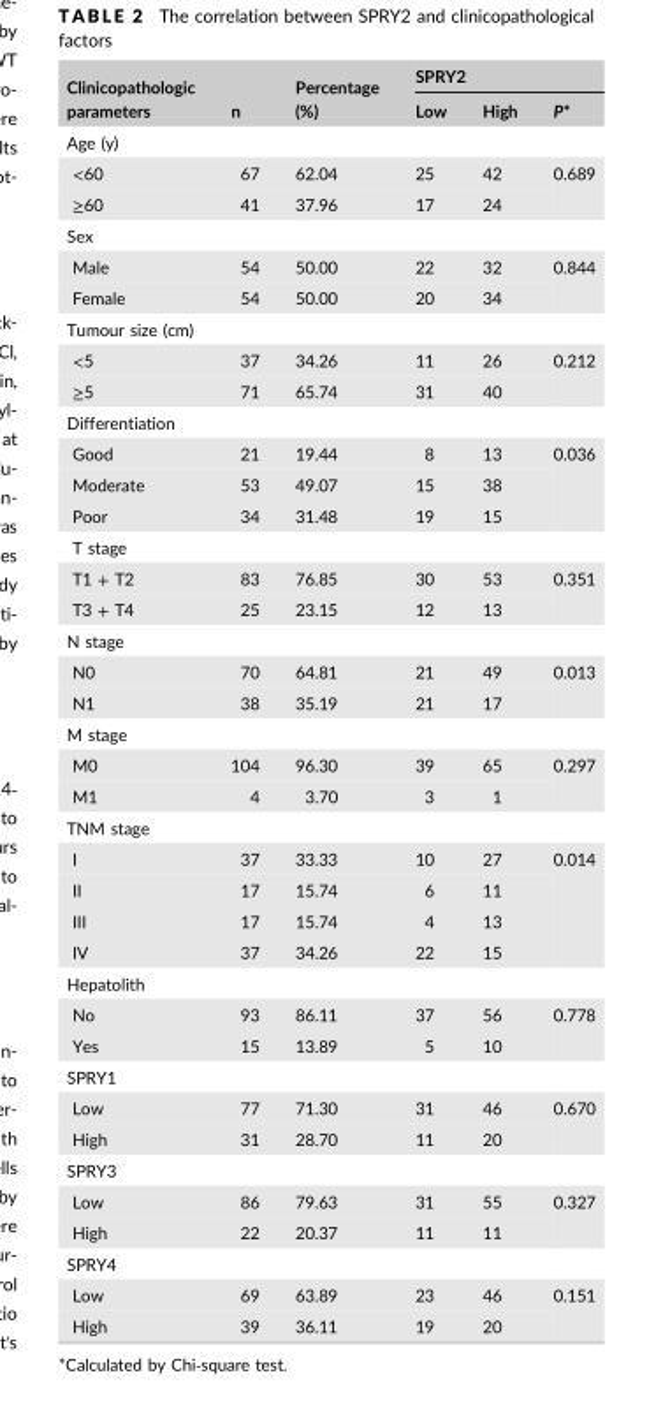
<table><thead><tr><td rowspan="2">Clinicopathologic parameters</td><td rowspan="2">n</td><td rowspan="2">Percentage (%)</td><td colspan="3">SPRY2</td></tr><tr><td>Low</td><td>High</td><td>P*</td></tr></thead><tbody><tr><td colspan="6">Age (y)</td></tr><tr><td>&lt;60</td><td>67</td><td>62.04</td><td>25</td><td>42</td><td rowspan="2">0.689</td></tr><tr><td>≥60</td><td>41</td><td>37.96</td><td>17</td><td>24</td></tr><tr><td colspan="6">Sex</td></tr><tr><td>Male</td><td>54</td><td>50.00</td><td>22</td><td>32</td><td rowspan="2">0.844</td></tr><tr><td>Female</td><td>54</td><td>50.00</td><td>20</td><td>34</td></tr><tr><td colspan="6">Tumour size (cm)</td></tr><tr><td>&lt;5</td><td>37</td><td>34.26</td><td>11</td><td>26</td><td rowspan="2">0.212</td></tr><tr><td>≥5</td><td>71</td><td>65.74</td><td>31</td><td>40</td></tr><tr><td colspan="6">Differentiation</td></tr><tr><td>Good</td><td>21</td><td>19.44</td><td>8</td><td>13</td><td rowspan="3">0.036</td></tr><tr><td>Moderate</td><td>53</td><td>49.07</td><td>15</td><td>38</td></tr><tr><td>Poor</td><td>34</td><td>31.48</td><td>19</td><td>15</td></tr><tr><td colspan="6">T stage</td></tr><tr><td>T1 + T2</td><td>83</td><td>76.85</td><td>30</td><td>53</td><td rowspan="2">0.351</td></tr><tr><td>T3 + T4</td><td>25</td><td>23.15</td><td>12</td><td>13</td></tr><tr><td colspan="6">N stage</td></tr><tr><td>N0</td><td>70</td><td>64.81</td><td>21</td><td>49</td><td rowspan="2">0.013</td></tr><tr><td>N1</td><td>38</td><td>35.19</td><td>21</td><td>17</td></tr><tr><td colspan="6">M stage</td></tr><tr><td>M0</td><td>104</td><td>96.30</td><td>39</td><td>65</td><td rowspan="2">0.297</td></tr><tr><td>M1</td><td>4</td><td>3.70</td><td>3</td><td>1</td></tr><tr><td colspan="6">TNM stage</td></tr><tr><td>I</td><td>37</td><td>33.33</td><td>10</td><td>27</td><td rowspan="4">0.014</td></tr><tr><td>II</td><td>17</td><td>15.74</td><td>6</td><td>11</td></tr><tr><td>III</td><td>17</td><td>15.74</td><td>4</td><td>13</td></tr><tr><td>IV</td><td>37</td><td>34.26</td><td>22</td><td>15</td></tr><tr><td colspan="6">Hepatolith</td></tr><tr><td>No</td><td>93</td><td>86.11</td><td>37</td><td>56</td><td rowspan="2">0.778</td></tr><tr><td>Yes</td><td>15</td><td>13.89</td><td>5</td><td>10</td></tr><tr><td colspan="6">SPRY1</td></tr><tr><td>Low</td><td>77</td><td>71.30</td><td>31</td><td>46</td><td rowspan="2">0.670</td></tr><tr><td>High</td><td>31</td><td>28.70</td><td>11</td><td>20</td></tr><tr><td colspan="6">SPRY3</td></tr><tr><td>Low</td><td>86</td><td>79.63</td><td>31</td><td>55</td><td rowspan="2">0.327</td></tr><tr><td>High</td><td>22</td><td>20.37</td><td>11</td><td>11</td></tr><tr><td colspan="6">SPRY4</td></tr><tr><td>Low</td><td>69</td><td>63.89</td><td>23</td><td>46</td><td rowspan="2">0.151</td></tr><tr><td>High</td><td>39</td><td>36.11</td><td>19</td><td>20</td></tr></tbody></table>